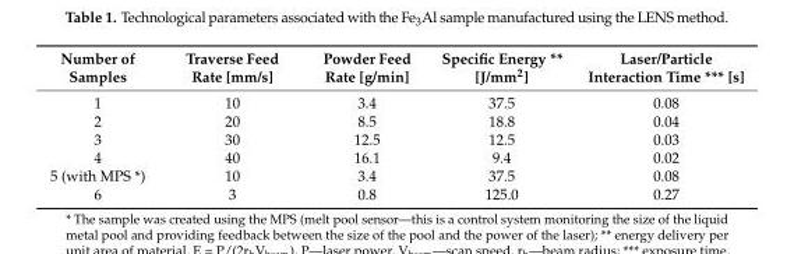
<table><thead><tr><td>Number of Samples</td><td>Traverse Feed Rate [mm/s]</td><td>Powder Feed Rate [g/min]</td><td>Specific Energy ** [J/mm<sup>2</sup>]</td><td>Laser/Particle Interaction Time *** [s]</td></tr></thead><tbody><tr><td>1</td><td>10</td><td>3.4</td><td>37.5</td><td>0.08</td></tr><tr><td>2</td><td>20</td><td>8.5</td><td>18.8</td><td>0.04</td></tr><tr><td>3</td><td>30</td><td>12.5</td><td>12.5</td><td>0.03</td></tr><tr><td>4</td><td>40</td><td>16.1</td><td>9.4</td><td>0.02</td></tr><tr><td>5 (with MPS *)</td><td>10</td><td>3.4</td><td>37.5</td><td>0.08</td></tr><tr><td>6</td><td>3</td><td>0.8</td><td>125.0</td><td>0.27</td></tr></tbody></table>